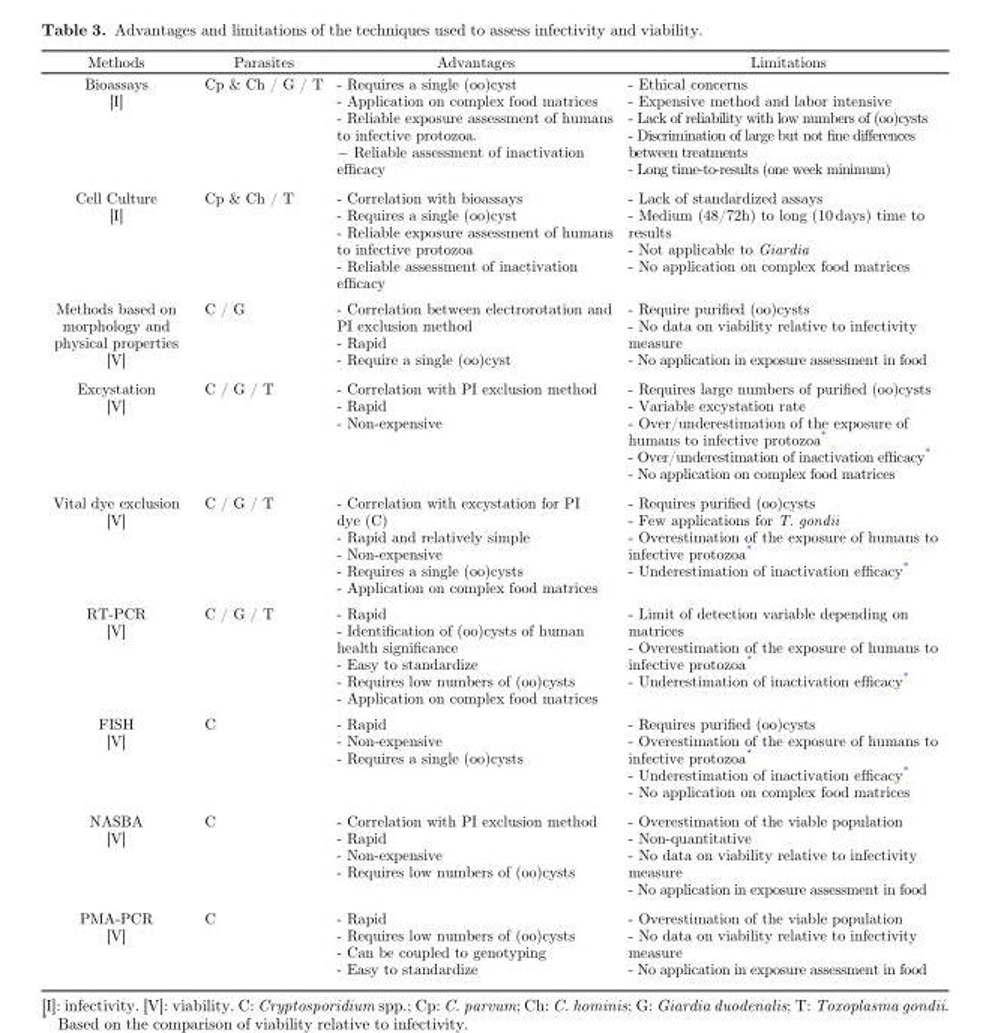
<table><thead><tr><td>Methods</td><td>Parasites</td><td>Advantages</td><td>Limitations</td></tr></thead><tbody><tr><td>Bioassays [I]</td><td>Cp &amp; Ch / G / T</td><td>- Requires a single (oo)cyst - Application on complex food matrices - Reliable exposure assessment of humans to infective protozoa. − Reliable assessment of inactivation efficacy</td><td>- Ethical concerns - Expensive method and labor intensive - Lack of reliability with low numbers of (oo)cysts - Discrimination of large but not fine differences between treatments - Long time-to-results (one week minimum)</td></tr><tr><td>Cell Culture [I]</td><td>Cp &amp; Ch / T</td><td>- Correlation with bioassays - Requires a single (oo)cyst - Reliable exposure assessment of humans to infective protozoa - Reliable assessment of inactivation efficacy</td><td>- Lack of standardized assays - Medium (48/72h) to long (10 days) time to results - Not applicable to Giardia - No application on complex food matrices</td></tr><tr><td>Methods based on morphology and physical properties [V]</td><td>C / G</td><td>- Correlation between electrorotation and PI exclusion method - Rapid - Require a single (oo)cyst</td><td>- Require purified (oo)cysts - No data on viability relative to infectivity measure - No application in exposure assessment in food</td></tr><tr><td>Excystation [V]</td><td>C / G / T</td><td>- Correlation with PI exclusion method - Rapid - Non-expensive</td><td>- Requires large numbers of purified (oo)cysts - Variable excystation rate - Over/underestimation of the exposure of humans to infective protozoa* - Over/underestimation of inactivation efficacy* - No application on complex food matrices</td></tr><tr><td>Vital dye exclusion [V]</td><td>C / G / T</td><td>- Correlation with excystation for PI dye (C) - Rapid and relatively simple - Non-expensive - Requires a single (oo)cysts - Application on complex food matrices</td><td>- Requires purified (oo)cysts - Few applications for T. gondii - Overestimation of the exposure of humans to infective protozoa* - Underestimation of inactivation efficacy*</td></tr><tr><td>RT-PCR [V]</td><td>C / G / T</td><td>- Rapid - Identification of (oo)cysts of human health significance - Easy to standardize - Requires low numbers of (oo)cysts - Application on complex food matrices</td><td>- Limit of detection variable depending on matrices - Overestimation of the exposure of humans to infective protozoa* - Underestimation of inactivation efficacy*</td></tr><tr><td>FISH [V]</td><td>C</td><td>- Rapid - Non-expensive - Requires a single (oo)cysts</td><td>- Requires purified (oo)cysts - Overestimation of the exposure of humans to infective protozoa* - Underestimation of inactivation efficacy* - No application on complex food matrices</td></tr><tr><td>NASBA [V]</td><td>C</td><td>- Correlation with PI exclusion method - Rapid - Non-expensive - Requires low numbers of (oo)cysts</td><td>- Overestimation of the viable population - Non-quantitative - No data on viability relative to infectivity measure - No application in exposure assessment in food</td></tr><tr><td>PMA-PCR [V]</td><td>C</td><td>- Rapid - Requires low numbers of (oo)cysts - Can be coupled to genotyping - Easy to standardize</td><td>- Overestimation of the viable population - No data on viability relative to infectivity measure - No application in exposure assessment in food</td></tr></tbody></table>